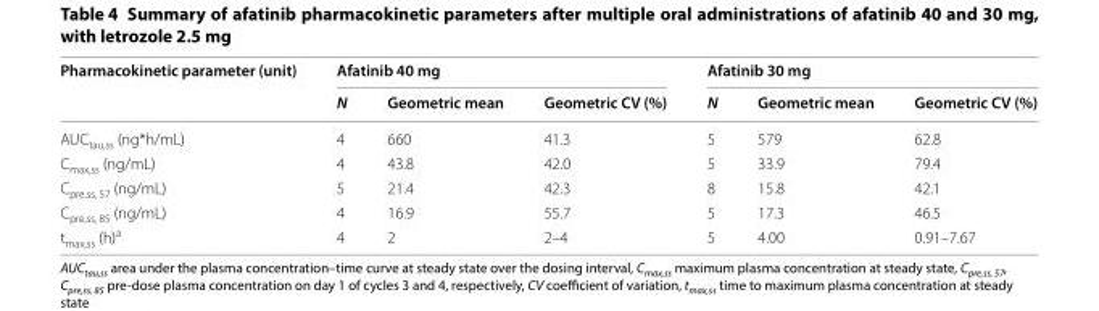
<table><thead><tr><td rowspan="2">Pharmacokinetic parameter (unit)</td><td colspan="3">Afatinib 40 mg</td><td colspan="3">Afatinib 30 mg</td></tr><tr><td>N</td><td>Geometric mean</td><td>Geometric CV (%)</td><td>N</td><td>Geometric mean</td><td>Geometric CV (%)</td></tr></thead><tbody><tr><td>AUC<sub>tau,ss</sub> (ng*h/mL)</td><td>4</td><td>660</td><td>41.3</td><td>5</td><td>579</td><td>62.8</td></tr><tr><td>C<sub>max,ss</sub> (ng/mL)</td><td>4</td><td>43.8</td><td>42.0</td><td>5</td><td>33.9</td><td>79.4</td></tr><tr><td>C<sub>pre,ss, 57</sub> (ng/mL)</td><td>5</td><td>21.4</td><td>42.3</td><td>8</td><td>15.8</td><td>42.1</td></tr><tr><td>C<sub>pre,ss, 85</sub> (ng/mL)</td><td>4</td><td>16.9</td><td>55.7</td><td>5</td><td>17.3</td><td>46.5</td></tr><tr><td>t<sub>max,ss</sub> (h)<sup>a</sup></td><td>4</td><td>2</td><td>2–4</td><td>5</td><td>4.00</td><td>0.91–7.67</td></tr></tbody></table>